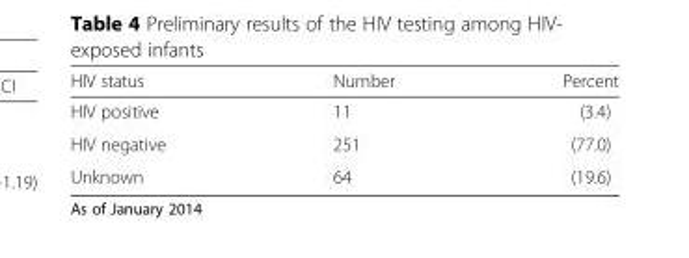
<table><thead><tr><td>HIV status</td><td>Number</td><td>Percent</td></tr></thead><tbody><tr><td>HIV positive</td><td>11</td><td>(3.4)</td></tr><tr><td>HIV negative</td><td>251</td><td>(77.0)</td></tr><tr><td>Unknown</td><td>64</td><td>(19.6)</td></tr></tbody></table>